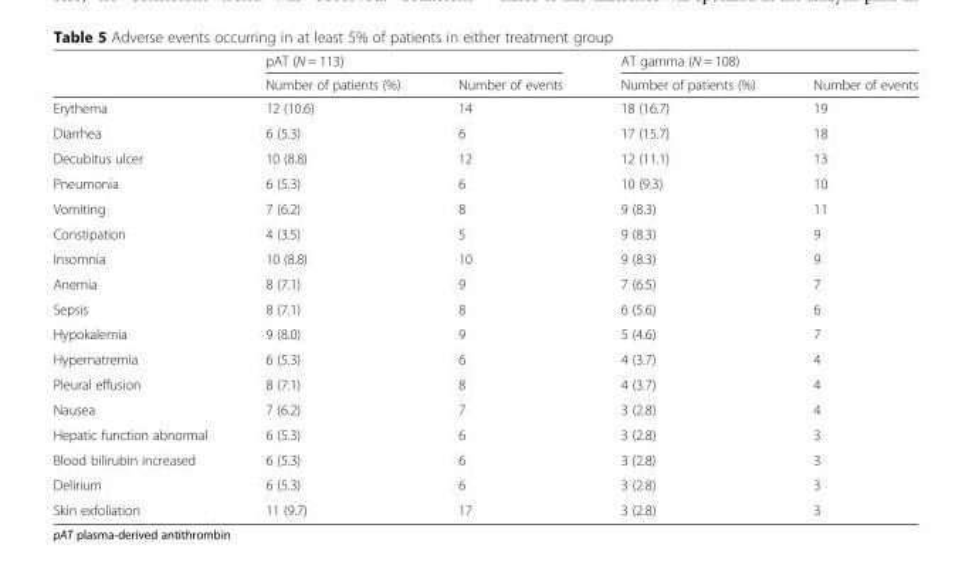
<table><thead><tr><td rowspan="2"></td><td colspan="2">pAT (N = 113)</td><td colspan="2">AT gamma (N = 108)</td></tr><tr><td>Number of patients (%)</td><td>Number of events</td><td>Number of patients (%)</td><td>Number of events</td></tr></thead><tbody><tr><td>Erythema</td><td>12 (10.6)</td><td>14</td><td>18 (16.7)</td><td>19</td></tr><tr><td>Diarrhea</td><td>6 (5.3)</td><td>6</td><td>17 (15.7)</td><td>18</td></tr><tr><td>Decubitus ulcer</td><td>10 (8.8)</td><td>12</td><td>12 (11.1)</td><td>13</td></tr><tr><td>Pneumonia</td><td>6 (5.3)</td><td>6</td><td>10 (9.3)</td><td>10</td></tr><tr><td>Vomiting</td><td>7 (6.2)</td><td>8</td><td>9 (8.3)</td><td>11</td></tr><tr><td>Constipation</td><td>4 (3.5)</td><td>5</td><td>9 (8.3)</td><td>9</td></tr><tr><td>Insomnia</td><td>10 (8.8)</td><td>10</td><td>9 (8.3)</td><td>9</td></tr><tr><td>Anemia</td><td>8 (7.1)</td><td>9</td><td>7 (6.5)</td><td>7</td></tr><tr><td>Sepsis</td><td>8 (7.1)</td><td>8</td><td>6 (5.6)</td><td>6</td></tr><tr><td>Hypokalemia</td><td>9 (8.0)</td><td>9</td><td>5 (4.6)</td><td>7</td></tr><tr><td>Hypernatremia</td><td>6 (5.3)</td><td>6</td><td>4 (3.7)</td><td>4</td></tr><tr><td>Pleural effusion</td><td>8 (7.1)</td><td>8</td><td>4 (3.7)</td><td>4</td></tr><tr><td>Nausea</td><td>7 (6.2)</td><td>7</td><td>3 (2.8)</td><td>4</td></tr><tr><td>Hepatic function abnormal</td><td>6 (5.3)</td><td>6</td><td>3 (2.8)</td><td>3</td></tr><tr><td>Blood bilirubin increased</td><td>6 (5.3)</td><td>6</td><td>3 (2.8)</td><td>3</td></tr><tr><td>Delirium</td><td>6 (5.3)</td><td>6</td><td>3 (2.8)</td><td>3</td></tr><tr><td>Skin exfoliation</td><td>11 (9.7)</td><td>17</td><td>3 (2.8)</td><td>3</td></tr></tbody></table>